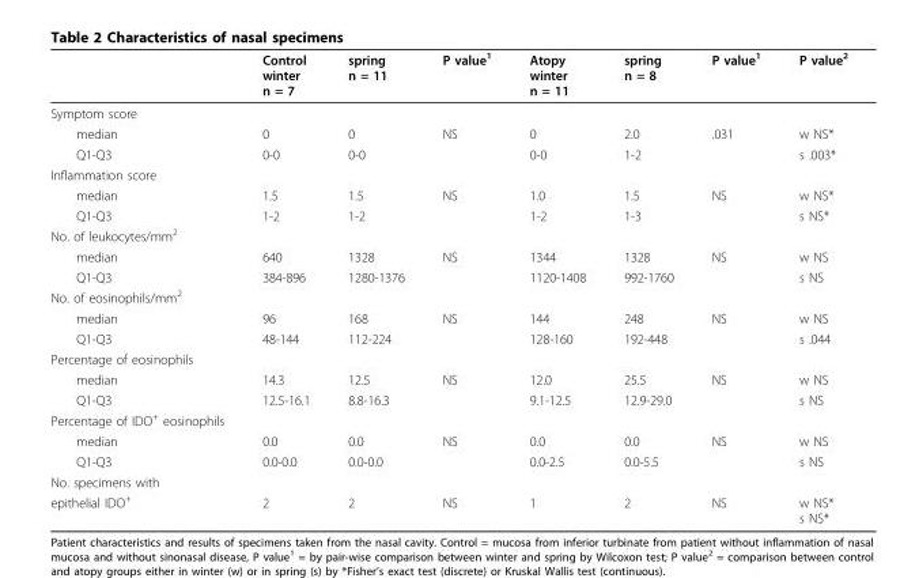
<table><thead><tr><td></td><td>Control winter n = 7</td><td>spring n = 11</td><td>P value<sup>1</sup></td><td>Atopy winter n = 11</td><td>spring n = 8</td><td>P value<sup>1</sup></td><td>P value<sup>2</sup></td></tr></thead><tbody><tr><td colspan="8">Symptom score</td></tr><tr><td>median</td><td>0</td><td>0</td><td>NS</td><td>0</td><td>2.0</td><td>.031</td><td>w NS*</td></tr><tr><td>Q1-Q3</td><td>0-0</td><td>0-0</td><td></td><td>0-0</td><td>1-2</td><td></td><td>s .003*</td></tr><tr><td colspan="8">Inflammation score</td></tr><tr><td>median</td><td>1.5</td><td>1.5</td><td>NS</td><td>1.0</td><td>1.5</td><td>NS</td><td>w NS*</td></tr><tr><td>Q1-Q3</td><td>1-2</td><td>1-2</td><td></td><td>1-2</td><td>1-3</td><td></td><td>s NS*</td></tr><tr><td colspan="8">No. of leukocytes/mm<sup>2</sup></td></tr><tr><td>median</td><td>640</td><td>1328</td><td>NS</td><td>1344</td><td>1328</td><td>NS</td><td>w NS</td></tr><tr><td>Q1-Q3</td><td>384-896</td><td>1280-1376</td><td></td><td>1120-1408</td><td>992-1760</td><td></td><td>s NS</td></tr><tr><td colspan="8">No. of eosinophils/mm<sup>2</sup></td></tr><tr><td>median</td><td>96</td><td>168</td><td>NS</td><td>144</td><td>248</td><td>NS</td><td>w NS</td></tr><tr><td>Q1-Q3</td><td>48-144</td><td>112-224</td><td></td><td>128-160</td><td>192-448</td><td></td><td>s .044</td></tr><tr><td colspan="8">Percentage of eosinophils</td></tr><tr><td>median</td><td>14.3</td><td>12.5</td><td>NS</td><td>12.0</td><td>25.5</td><td>NS</td><td>w NS</td></tr><tr><td>Q1-Q3</td><td>12.5-16.1</td><td>8.8-16.3</td><td></td><td>9.1-12.5</td><td>12.9-29.0</td><td></td><td>s NS</td></tr><tr><td colspan="8">Percentage of IDO<sup>+</sup> eosinophils</td></tr><tr><td>median</td><td>0.0</td><td>0.0</td><td>NS</td><td>0.0</td><td>0.0</td><td>NS</td><td>w NS</td></tr><tr><td>Q1-Q3</td><td>0.0-0.0</td><td>0.0-0.0</td><td></td><td>0.0-2.5</td><td>0.0-5.5</td><td></td><td>s NS</td></tr><tr><td colspan="8">No. specimens with</td></tr><tr><td>epithelial IDO<sup>+</sup></td><td>2</td><td>2</td><td>NS</td><td>1</td><td>2</td><td>NS</td><td>w NS* s NS*</td></tr></tbody></table>